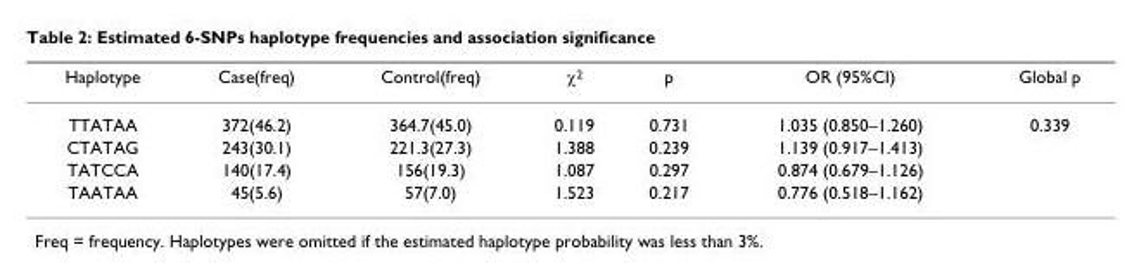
<table><thead><tr><td>Haplotype</td><td>Case(freq)</td><td>Control(freq)</td><td>χ<sup>2</sup></td><td>p</td><td>OR (95%CI)</td><td>Global p</td></tr></thead><tbody><tr><td>TTATAA</td><td>372(46.2)</td><td>364.7(45.0)</td><td>0.119</td><td>0.731</td><td>1.035 (0.850–1.260)</td><td>0.339</td></tr><tr><td>CTATAG</td><td>243(30.1)</td><td>221.3(27.3)</td><td>1.388</td><td>0.239</td><td>1.139 (0.917–1.413)</td><td></td></tr><tr><td>TATCCA</td><td>140(17.4)</td><td>156(19.3)</td><td>1.087</td><td>0.297</td><td>0.874 (0.679–1.126)</td><td></td></tr><tr><td>TAATAA</td><td>45(5.6)</td><td>57(7.0)</td><td>1.523</td><td>0.217</td><td>0.776 (0.518–1.162)</td><td></td></tr></tbody></table>